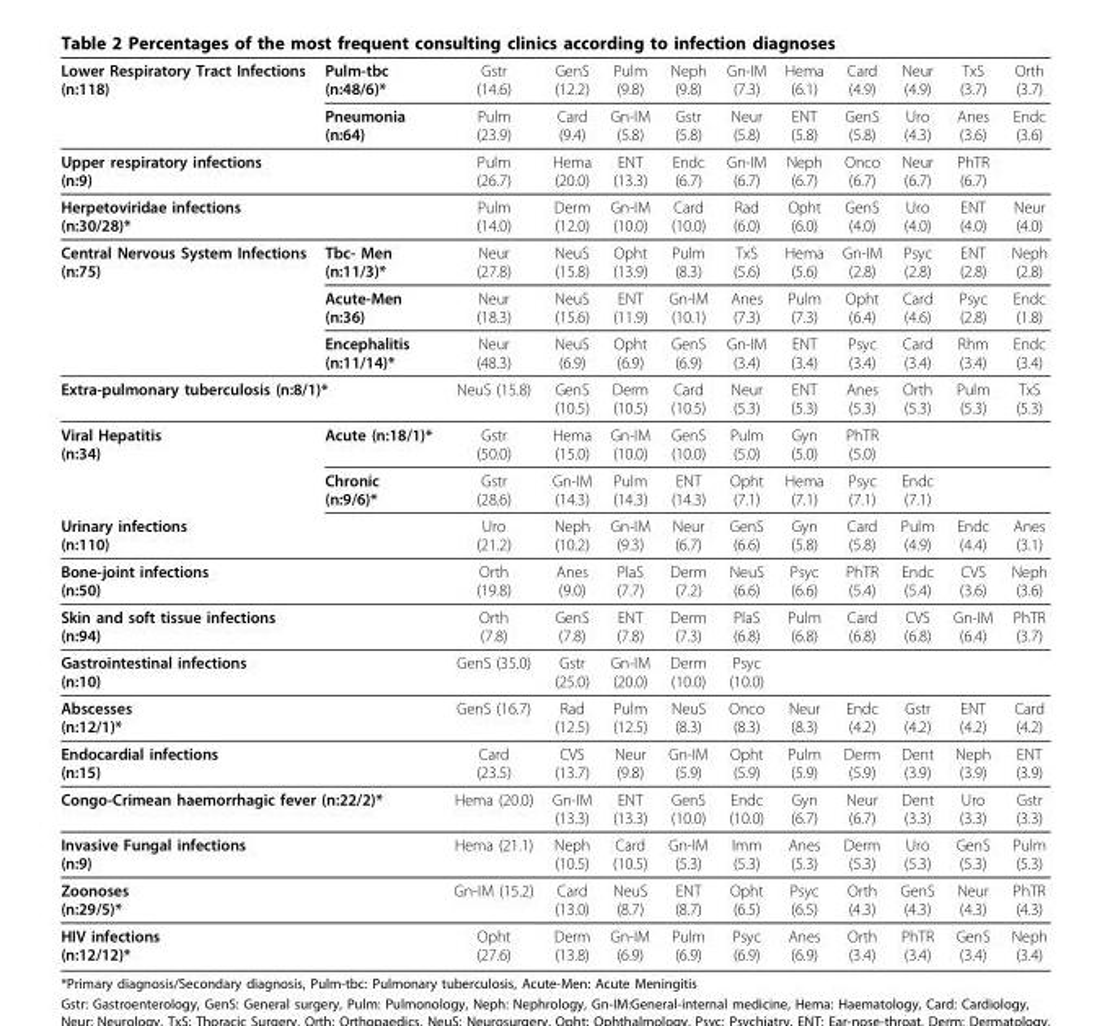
<table><thead><tr><td rowspan="2">Lower Respiratory Tract Infections (n:118)</td><td rowspan="2">Pulm-tbc (n:48/6)* Pneumonia (n:64)</td><td rowspan="2">Gstr (14.6) Pulm (23.9)</td><td rowspan="2">GenS (12.2) Card (9.4)</td><td rowspan="2">Pulm (9.8) Gn-IM (5.8)</td><td rowspan="2">Neph (9.8) Gstr (5.8)</td><td rowspan="2">Gn-IM (7.3) Neur (5.8)</td><td rowspan="2">Hema (6.1) ENT (5.8)</td><td rowspan="2">Card (4.9) GenS (5.8)</td><td rowspan="2">Neur (4.9) Uro (4.3)</td><td rowspan="2">TxS (3.7) Anes (3.6)</td><td rowspan="2">Orth (3.7) Endc (3.6)</td></tr><tr></tr></thead><tbody><tr><td colspan="2">Upper respiratory infections (n:9)</td><td>Pulm (26.7)</td><td>Hema (20.0)</td><td>ENT (13.3)</td><td>Endc (6.7)</td><td>Gn-IM (6.7)</td><td>Neph (6.7)</td><td>Onco (6.7)</td><td>Neur (6.7)</td><td>PhTR (6.7)</td><td></td></tr><tr><td colspan="2">Herpetoviridae infections (n:30/28)*</td><td>Pulm (14.0)</td><td>Derm (12.0)</td><td>Gn-IM (10.0)</td><td>Card (10.0)</td><td>Rad (6.0)</td><td>Opht (6.0)</td><td>GenS (4.0)</td><td>Uro (4.0)</td><td>ENT (4.0)</td><td>Neur (4.0)</td></tr><tr><td rowspan="3">Central Nervous System Infections (n:75)</td><td>Tbc- Men (n:11/3)*</td><td>Neur (27.8)</td><td>NeuS (15.8)</td><td>Opht (13.9)</td><td>Pulm (8.3)</td><td>TxS (5.6)</td><td>Hema (5.6)</td><td>Gn-IM (2.8)</td><td>Psyc (2.8)</td><td>ENT (2.8)</td><td>Neph (2.8)</td></tr><tr><td>Acute-Men (n:36)</td><td>Neur (18.3)</td><td>NeuS (15.6)</td><td>ENT (11.9)</td><td>Gn-IM (10.1)</td><td>Anes (7.3)</td><td>Pulm (7.3)</td><td>Opht (6.4)</td><td>Card (4.6)</td><td>Psyc (2.8)</td><td>Endc (1.8)</td></tr><tr><td>Encephalitis (n:11/14)*</td><td>Neur (48.3)</td><td>NeuS (6.9)</td><td>Opht (6.9)</td><td>GenS (6.9)</td><td>Gn-IM (3.4)</td><td>ENT (3.4)</td><td>Psyc (3.4)</td><td>Card (3.4)</td><td>Rhm (3.4)</td><td>Endc (3.4)</td></tr><tr><td colspan="2">Extra-pulmonary tuberculosis (n:8/1)*</td><td>NeuS (15.8)</td><td>GenS (10.5)</td><td>Derm (10.5)</td><td>Card (10.5)</td><td>Neur (5.3)</td><td>ENT (5.3)</td><td>Anes (5.3)</td><td>Orth (5.3)</td><td>Pulm (5.3)</td><td>TxS (5.3)</td></tr><tr><td rowspan="2">Viral Hepatitis (n:34)</td><td>Acute (n:18/1)*</td><td>Gstr (50.0)</td><td>Hema (15.0)</td><td>Gn-IM (10.0)</td><td>GenS (10.0)</td><td>Pulm (5.0)</td><td>Gyn (5.0)</td><td>PhTR (5.0)</td><td></td><td></td><td></td></tr><tr><td>Chronic (n:9/6)*</td><td>Gstr (28.6)</td><td>Gn-IM (14.3)</td><td>Pulm (14.3)</td><td>ENT (14.3)</td><td>Opht (7.1)</td><td>Hema (7.1)</td><td>Psyc (7.1)</td><td>Endc (7.1)</td><td></td><td></td></tr><tr><td colspan="2">Urinary infections (n:110)</td><td>Uro (21.2)</td><td>Neph (10.2)</td><td>Gn-IM (9.3)</td><td>Neur (6.7)</td><td>GenS (6.6)</td><td>Gyn (5.8)</td><td>Card (5.8)</td><td>Pulm (4.9)</td><td>Endc (4.4)</td><td>Anes (3.1)</td></tr><tr><td colspan="2">Bone-joint infections (n:50)</td><td>Orth (19.8)</td><td>Anes (9.0)</td><td>PlaS (7.7)</td><td>Derm (7.2)</td><td>NeuS (6.6)</td><td>Psyc (6.6)</td><td>PhTR (5.4)</td><td>Endc (5.4)</td><td>CVS (3.6)</td><td>Neph (3.6)</td></tr><tr><td colspan="2">Skin and soft tissue infections (n:94)</td><td>Orth (7.8)</td><td>GenS (7.8)</td><td>ENT (7.8)</td><td>Derm (7.3)</td><td>PlaS (6.8)</td><td>Pulm (6.8)</td><td>Card (6.8)</td><td>CVS (6.8)</td><td>Gn-IM (6.4)</td><td>PhTR (3.7)</td></tr><tr><td colspan="2">Gastrointestinal infections (n:10)</td><td>GenS (35.0)</td><td>Gstr (25.0)</td><td>Gn-IM (20.0)</td><td>Derm (10.0)</td><td>Psyc (10.0)</td><td></td><td></td><td></td><td></td><td></td></tr><tr><td colspan="2">Abscesses (n:12/1)*</td><td>GenS (16.7)</td><td>Rad (12.5)</td><td>Pulm (12.5)</td><td>NeuS (8.3)</td><td>Onco (8.3)</td><td>Neur (8.3)</td><td>Endc (4.2)</td><td>Gstr (4.2)</td><td>ENT (4.2)</td><td>Card (4.2)</td></tr><tr><td colspan="2">Endocardial infections (n:15)</td><td>Card (23.5)</td><td>CVS (13.7)</td><td>Neur (9.8)</td><td>Gn-IM (5.9)</td><td>Opht (5.9)</td><td>Pulm (5.9)</td><td>Derm (5.9)</td><td>Dent (3.9)</td><td>Neph (3.9)</td><td>ENT (3.9)</td></tr><tr><td colspan="2">Congo-Crimean haemorrhagic fever (n:22/2)*</td><td>Hema (20.0)</td><td>Gn-IM (13.3)</td><td>ENT (13.3)</td><td>GenS (10.0)</td><td>Endc (10.0)</td><td>Gyn (6.7)</td><td>Neur (6.7)</td><td>Dent (3.3)</td><td>Uro (3.3)</td><td>Gstr (3.3)</td></tr><tr><td colspan="2">Invasive Fungal infections (n:9)</td><td>Hema (21.1)</td><td>Neph (10.5)</td><td>Card (10.5)</td><td>Gn-IM (5.3)</td><td>Imm (5.3)</td><td>Anes (5.3)</td><td>Derm (5.3)</td><td>Uro (5.3)</td><td>GenS (5.3)</td><td>Pulm (5.3)</td></tr><tr><td colspan="2">Zoonoses (n:29/5)*</td><td>Gn-IM (15.2)</td><td>Card (13.0)</td><td>NeuS (8.7)</td><td>ENT (8.7)</td><td>Opht (6.5)</td><td>Psyc (6.5)</td><td>Orth (4.3)</td><td>GenS (4.3)</td><td>Neur (4.3)</td><td>PhTR (4.3)</td></tr><tr><td colspan="2">HIV infections (n:12/12)*</td><td>Opht (27.6)</td><td>Derm (13.8)</td><td>Gn-IM (6.9)</td><td>Pulm (6.9)</td><td>Psyc (6.9)</td><td>Anes (6.9)</td><td>Orth (3.4)</td><td>PhTR (3.4)</td><td>GenS (3.4)</td><td>Neph (3.4)</td></tr></tbody></table>